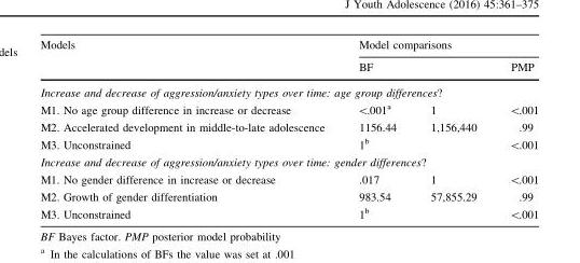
<table><thead><tr><td rowspan="2">Models</td><td colspan="3">Model comparisons</td></tr><tr><td colspan="2">BF</td><td>PMP</td></tr><tr><td colspan="4">Increase and decrease of aggression/anxiety types over time: age group differences?</td></tr><tr><td>M1. No age group difference in increase or decrease</td><td>&lt;.001<sup>a</sup></td><td>1</td><td>&lt;.001</td></tr></thead><tbody><tr><td>M2. Accelerated development in middle-to-late adolescence</td><td>1156.44</td><td>1,156,440</td><td>.99</td></tr><tr><td>M3. Unconstrained</td><td>1<sup>b</sup></td><td></td><td>&lt;.001</td></tr><tr><td colspan="4">Increase and decrease of aggression/anxiety types over time: gender differences?</td></tr><tr><td>M1. No gender difference in increase or decrease</td><td>.017</td><td>1</td><td>&lt;.001</td></tr><tr><td>M2. Growth of gender differentiation</td><td>983.54</td><td>57,855.29</td><td>.99</td></tr><tr><td>M3. Unconstrained</td><td>1<sup>b</sup></td><td></td><td>&lt;.001</td></tr></tbody></table>